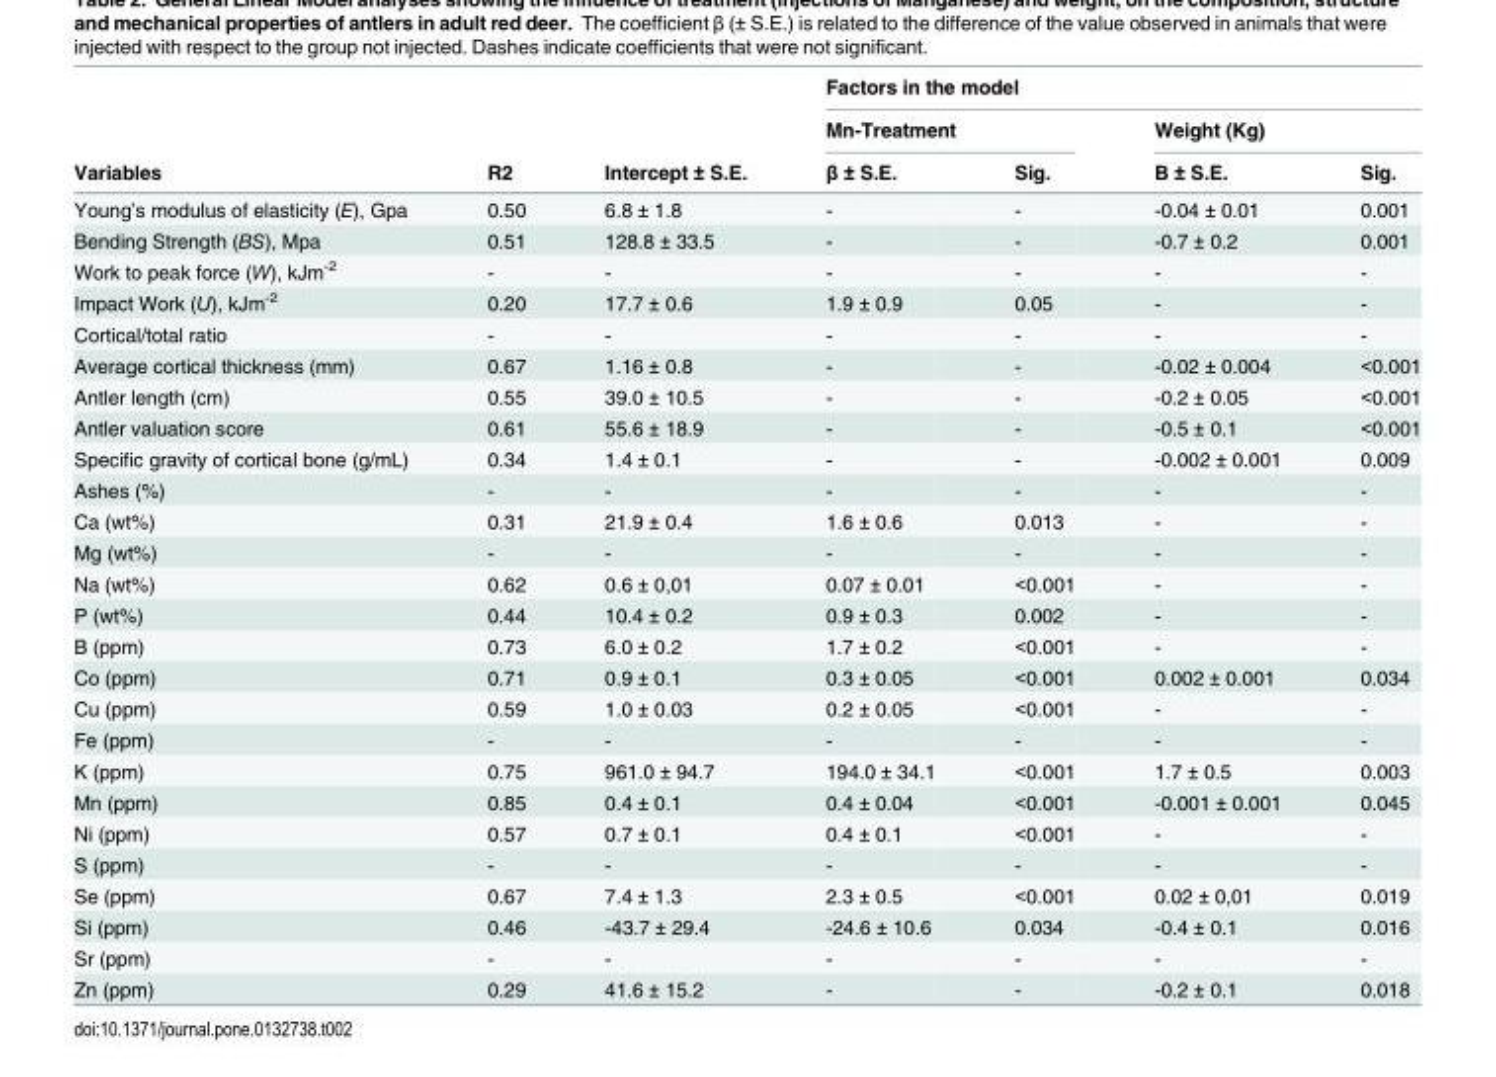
<table><thead><tr><td rowspan="3">Variables</td><td rowspan="3">R2</td><td rowspan="3">Intercept ± S.E.</td><td colspan="4">Factors in the model</td></tr><tr><td colspan="2">Mn-Treatment</td><td colspan="2">Weight (Kg)</td></tr><tr><td>β ± S.E.</td><td>Sig.</td><td>Β ± S.E.</td><td>Sig.</td></tr></thead><tbody><tr><td>Young’s modulus of elasticity (E), Gpa</td><td>0.50</td><td>6.8 ± 1.8</td><td>-</td><td>-</td><td>-0.04 ± 0.01</td><td>0.001</td></tr><tr><td>Bending Strength (BS), Mpa</td><td>0.51</td><td>128.8 ± 33.5</td><td>-</td><td>-</td><td>-0.7 ± 0.2</td><td>0.001</td></tr><tr><td>Work to peak force (W), kJm<sup>-2</sup></td><td>-</td><td>-</td><td>-</td><td>-</td><td>-</td><td>-</td></tr><tr><td>Impact Work (U), kJm<sup>-2</sup></td><td>0.20</td><td>17.7 ± 0.6</td><td>1.9 ± 0.9</td><td>0.05</td><td>-</td><td>-</td></tr><tr><td>Cortical/total ratio</td><td>-</td><td>-</td><td>-</td><td>-</td><td>-</td><td>-</td></tr><tr><td>Average cortical thickness (mm)</td><td>0.67</td><td>1.16 ± 0.8</td><td>-</td><td>-</td><td>-0.02 ± 0.004</td><td>&lt;0.001</td></tr><tr><td>Antler length (cm)</td><td>0.55</td><td>39.0 ± 10.5</td><td>-</td><td>-</td><td>-0.2 ± 0.05</td><td>&lt;0.001</td></tr><tr><td>Antler valuation score</td><td>0.61</td><td>55.6 ± 18.9</td><td>-</td><td>-</td><td>-0.5 ± 0.1</td><td>&lt;0.001</td></tr><tr><td>Specific gravity of cortical bone (g/mL)</td><td>0.34</td><td>1.4 ± 0.1</td><td>-</td><td>-</td><td>-0.002 ± 0.001</td><td>0.009</td></tr><tr><td>Ashes (%)</td><td>-</td><td>-</td><td>-</td><td>-</td><td>-</td><td>-</td></tr><tr><td>Ca (wt%)</td><td>0.31</td><td>21.9 ± 0.4</td><td>1.6 ± 0.6</td><td>0.013</td><td>-</td><td>-</td></tr><tr><td>Mg (wt%)</td><td>-</td><td>-</td><td>-</td><td>-</td><td>-</td><td>-</td></tr><tr><td>Na (wt%)</td><td>0.62</td><td>0.6 ± 0,01</td><td>0.07 ± 0.01</td><td>&lt;0.001</td><td>-</td><td>-</td></tr><tr><td>P (wt%)</td><td>0.44</td><td>10.4 ± 0.2</td><td>0.9 ± 0.3</td><td>0.002</td><td>-</td><td>-</td></tr><tr><td>B (ppm)</td><td>0.73</td><td>6.0 ± 0.2</td><td>1.7 ± 0.2</td><td>&lt;0.001</td><td>-</td><td>-</td></tr><tr><td>Co (ppm)</td><td>0.71</td><td>0.9 ± 0.1</td><td>0.3 ± 0.05</td><td>&lt;0.001</td><td>0.002 ± 0.001</td><td>0.034</td></tr><tr><td>Cu (ppm)</td><td>0.59</td><td>1.0 ± 0.03</td><td>0.2 ± 0.05</td><td>&lt;0.001</td><td>-</td><td>-</td></tr><tr><td>Fe (ppm)</td><td>-</td><td>-</td><td>-</td><td>-</td><td>-</td><td>-</td></tr><tr><td>K (ppm)</td><td>0.75</td><td>961.0 ± 94.7</td><td>194.0 ± 34.1</td><td>&lt;0.001</td><td>1.7 ± 0.5</td><td>0.003</td></tr><tr><td>Mn (ppm)</td><td>0.85</td><td>0.4 ± 0.1</td><td>0.4 ± 0.04</td><td>&lt;0.001</td><td>-0.001 ± 0.001</td><td>0.045</td></tr><tr><td>Ni (ppm)</td><td>0.57</td><td>0.7 ± 0.1</td><td>0.4 ± 0.1</td><td>&lt;0.001</td><td>-</td><td>-</td></tr><tr><td>S (ppm)</td><td>-</td><td>-</td><td>-</td><td>-</td><td>-</td><td>-</td></tr><tr><td>Se (ppm)</td><td>0.67</td><td>7.4 ± 1.3</td><td>2.3 ± 0.5</td><td>&lt;0.001</td><td>0.02 ± 0,01</td><td>0.019</td></tr><tr><td>Si (ppm)</td><td>0.46</td><td>-43.7 ± 29.4</td><td>-24.6 ± 10.6</td><td>0.034</td><td>-0.4 ± 0.1</td><td>0.016</td></tr><tr><td>Sr (ppm)</td><td>-</td><td>-</td><td>-</td><td>-</td><td>-</td><td>-</td></tr><tr><td>Zn (ppm)</td><td>0.29</td><td>41.6 ± 15.2</td><td>-</td><td>-</td><td>-0.2 ± 0.1</td><td>0.018</td></tr></tbody></table>